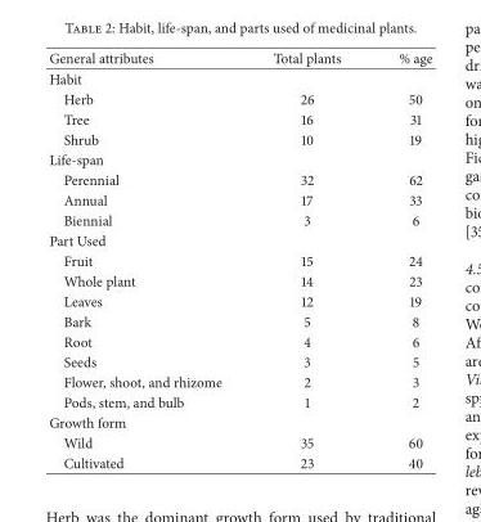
<table><thead><tr><td>General attributes</td><td>Total plants</td><td>% age</td></tr></thead><tbody><tr><td colspan="3">Habit</td></tr><tr><td>Herb</td><td>26</td><td>50</td></tr><tr><td>Tree</td><td>16</td><td>31</td></tr><tr><td>Shrub</td><td>10</td><td>19</td></tr><tr><td colspan="3">Life-span</td></tr><tr><td>Perennial</td><td>32</td><td>62</td></tr><tr><td>Annual</td><td>17</td><td>33</td></tr><tr><td>Biennial</td><td>3</td><td>6</td></tr><tr><td colspan="3">Part Used</td></tr><tr><td>Fruit</td><td>15</td><td>24</td></tr><tr><td>Whole plant</td><td>14</td><td>23</td></tr><tr><td>Leaves</td><td>12</td><td>19</td></tr><tr><td>Bark</td><td>5</td><td>8</td></tr><tr><td>Root</td><td>4</td><td>6</td></tr><tr><td>Seeds</td><td>3</td><td>5</td></tr><tr><td>Flower, shoot, and rhizome</td><td>2</td><td>3</td></tr><tr><td>Pods, stem, and bulb</td><td>1</td><td>2</td></tr><tr><td colspan="3">Growth form</td></tr><tr><td>Wild</td><td>35</td><td>60</td></tr><tr><td>Cultivated</td><td>23</td><td>40</td></tr></tbody></table>